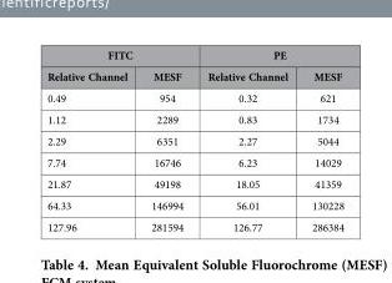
<table><thead><tr><td colspan="2">FITC</td><td colspan="2">PE</td></tr><tr><td>Relative Channel</td><td>MESF</td><td>Relative Channel</td><td>MESF</td></tr></thead><tbody><tr><td>0.49</td><td>954</td><td>0.32</td><td>621</td></tr><tr><td>1.12</td><td>2289</td><td>0.83</td><td>1734</td></tr><tr><td>2.29</td><td>6351</td><td>2.27</td><td>5044</td></tr><tr><td>7.74</td><td>16746</td><td>6.23</td><td>14029</td></tr><tr><td>21.87</td><td>49198</td><td>18.05</td><td>41359</td></tr><tr><td>64.33</td><td>146994</td><td>56.01</td><td>130228</td></tr><tr><td>127.96</td><td>281594</td><td>126.77</td><td>286384</td></tr></tbody></table>